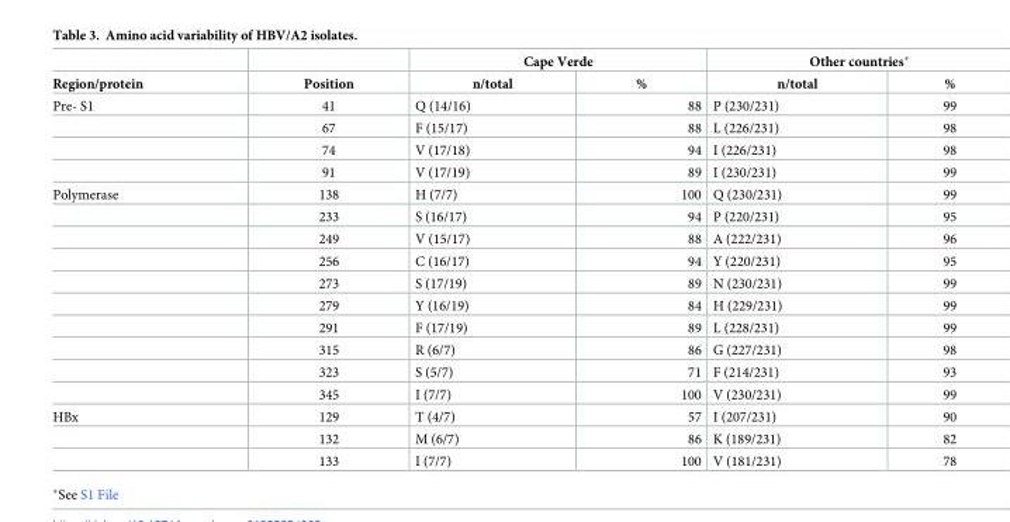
<table><thead><tr><td rowspan="2">Region/protein</td><td rowspan="2">Position</td><td colspan="2">Cape Verde</td><td colspan="2">Other countries*</td></tr><tr><td>n/total</td><td>%</td><td>n/total</td><td>%</td></tr></thead><tbody><tr><td rowspan="4">Pre- S1</td><td>41</td><td>Q (14/16)</td><td>88</td><td>P (230/231)</td><td>99</td></tr><tr><td>67</td><td>F (15/17)</td><td>88</td><td>L (226/231)</td><td>98</td></tr><tr><td>74</td><td>V (17/18)</td><td>94</td><td>I (226/231)</td><td>98</td></tr><tr><td>91</td><td>V (17/19)</td><td>89</td><td>I (230/231)</td><td>99</td></tr><tr><td rowspan="10">Polymerase</td><td>138</td><td>H (7/7)</td><td>100</td><td>Q (230/231)</td><td>99</td></tr><tr><td>233</td><td>S (16/17)</td><td>94</td><td>P (220/231)</td><td>95</td></tr><tr><td>249</td><td>V (15/17)</td><td>88</td><td>A (222/231)</td><td>96</td></tr><tr><td>256</td><td>C (16/17)</td><td>94</td><td>Y (220/231)</td><td>95</td></tr><tr><td>273</td><td>S (17/19)</td><td>89</td><td>N (230/231)</td><td>99</td></tr><tr><td>279</td><td>Y (16/19)</td><td>84</td><td>H (229/231)</td><td>99</td></tr><tr><td>291</td><td>F (17/19)</td><td>89</td><td>L (228/231)</td><td>99</td></tr><tr><td>315</td><td>R (6/7)</td><td>86</td><td>G (227/231)</td><td>98</td></tr><tr><td>323</td><td>S (5/7)</td><td>71</td><td>F (214/231)</td><td>93</td></tr><tr><td>345</td><td>I (7/7)</td><td>100</td><td>V (230/231)</td><td>99</td></tr><tr><td rowspan="3">HBx</td><td>129</td><td>T (4/7)</td><td>57</td><td>I (207/231)</td><td>90</td></tr><tr><td>132</td><td>M (6/7)</td><td>86</td><td>K (189/231)</td><td>82</td></tr><tr><td>133</td><td>I (7/7)</td><td>100</td><td>V (181/231)</td><td>78</td></tr></tbody></table>